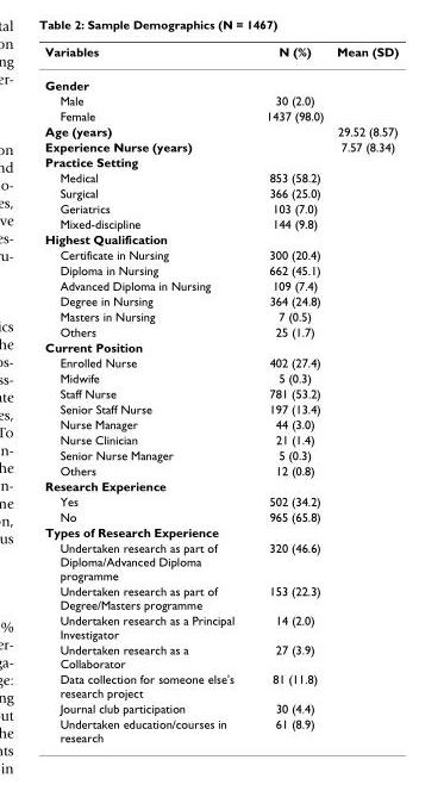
<table><thead><tr><td>Variables</td><td>N (%)</td><td>Mean (SD)</td></tr></thead><tbody><tr><td colspan="3">Gender</td></tr><tr><td>Male</td><td>30 (2.0)</td><td></td></tr><tr><td>Female</td><td>1437 (98.0)</td><td></td></tr><tr><td>Age (years)</td><td></td><td>29.52 (8.57)</td></tr><tr><td>Experience Nurse (years)</td><td></td><td>7.57 (8.34)</td></tr><tr><td colspan="3">Practice Setting</td></tr><tr><td>Medical</td><td>853 (58.2)</td><td></td></tr><tr><td>Surgical</td><td>366 (25.0)</td><td></td></tr><tr><td>Geriatrics</td><td>103 (7.0)</td><td></td></tr><tr><td>Mixed-discipline</td><td>144 (9.8)</td><td></td></tr><tr><td colspan="3">Highest Qualification</td></tr><tr><td>Certificate in Nursing</td><td>300 (20.4)</td><td></td></tr><tr><td>Diploma in Nursing</td><td>662 (45.1)</td><td></td></tr><tr><td>Advanced Diploma in Nursing</td><td>109 (7.4)</td><td></td></tr><tr><td>Degree in Nursing</td><td>364 (24.8)</td><td></td></tr><tr><td>Masters in Nursing</td><td>7 (0.5)</td><td></td></tr><tr><td>Others</td><td>25 (1.7)</td><td></td></tr><tr><td colspan="3">Current Position</td></tr><tr><td>Enrolled Nurse</td><td>402 (27.4)</td><td></td></tr><tr><td>Midwife</td><td>5 (0.3)</td><td></td></tr><tr><td>Staff Nurse</td><td>781 (53.2)</td><td></td></tr><tr><td>Senior Staff Nurse</td><td>197 (13.4)</td><td></td></tr><tr><td>Nurse Manager</td><td>44 (3.0)</td><td></td></tr><tr><td>Nurse Clinician</td><td>21 (1.4)</td><td></td></tr><tr><td>Senior Nurse Manager</td><td>5 (0.3)</td><td></td></tr><tr><td>Others</td><td>12 (0.8)</td><td></td></tr><tr><td colspan="3">Research Experience</td></tr><tr><td>Yes</td><td>502 (34.2)</td><td></td></tr><tr><td>No</td><td>965 (65.8)</td><td></td></tr><tr><td colspan="3">Types of Research Experience</td></tr><tr><td>Undertaken research as part of Diploma/Advanced Diploma programme</td><td>320 (46.6)</td><td></td></tr><tr><td>Undertaken research as part of Degree/Masters programme</td><td>153 (22.3)</td><td></td></tr><tr><td>Undertaken research as a Principal Investigator</td><td>14 (2.0)</td><td></td></tr><tr><td>Undertaken research as a Collaborator</td><td>27 (3.9)</td><td></td></tr><tr><td>Data collection for someone else&#x27;s research project</td><td>81 (11.8)</td><td></td></tr><tr><td>Journal club participation</td><td>30 (4.4)</td><td></td></tr><tr><td>Undertaken education/courses in research</td><td>61 (8.9)</td><td></td></tr></tbody></table>